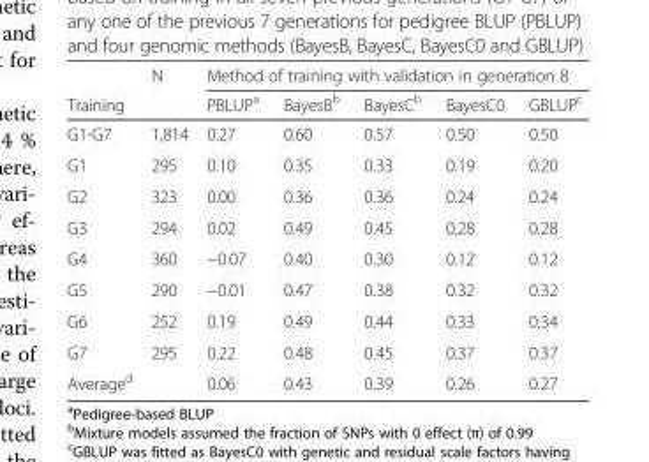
<table><thead><tr><td rowspan="2">Training</td><td rowspan="2">N</td><td colspan="5">Method of training with validation in generation 8</td></tr><tr><td>PBLUP<sup>a</sup></td><td>BayesB<sup>b</sup></td><td>BayesC<sup>b</sup></td><td>BayesC0</td><td>GBLUP<sup>c</sup></td></tr></thead><tbody><tr><td>G1-G7</td><td>1,814</td><td>0.27</td><td>0.60</td><td>0.57</td><td>0.50</td><td>0.50</td></tr><tr><td>G1</td><td>295</td><td>0.10</td><td>0.35</td><td>0.33</td><td>0.19</td><td>0.20</td></tr><tr><td>G2</td><td>323</td><td>0.00</td><td>0.36</td><td>0.36</td><td>0.24</td><td>0.24</td></tr><tr><td>G3</td><td>294</td><td>0.02</td><td>0.49</td><td>0.45</td><td>0.28</td><td>0.28</td></tr><tr><td>G4</td><td>360</td><td>−0.07</td><td>0.40</td><td>0.30</td><td>0.12</td><td>0.12</td></tr><tr><td>G5</td><td>290</td><td>−0.01</td><td>0.47</td><td>0.38</td><td>0.32</td><td>0.32</td></tr><tr><td>G6</td><td>252</td><td>0.19</td><td>0.49</td><td>0.44</td><td>0.33</td><td>0.34</td></tr><tr><td>G7</td><td>295</td><td>0.22</td><td>0.48</td><td>0.45</td><td>0.37</td><td>0.37</td></tr><tr><td>Average<sup>d</sup></td><td></td><td>0.06</td><td>0.43</td><td>0.39</td><td>0.26</td><td>0.27</td></tr></tbody></table>